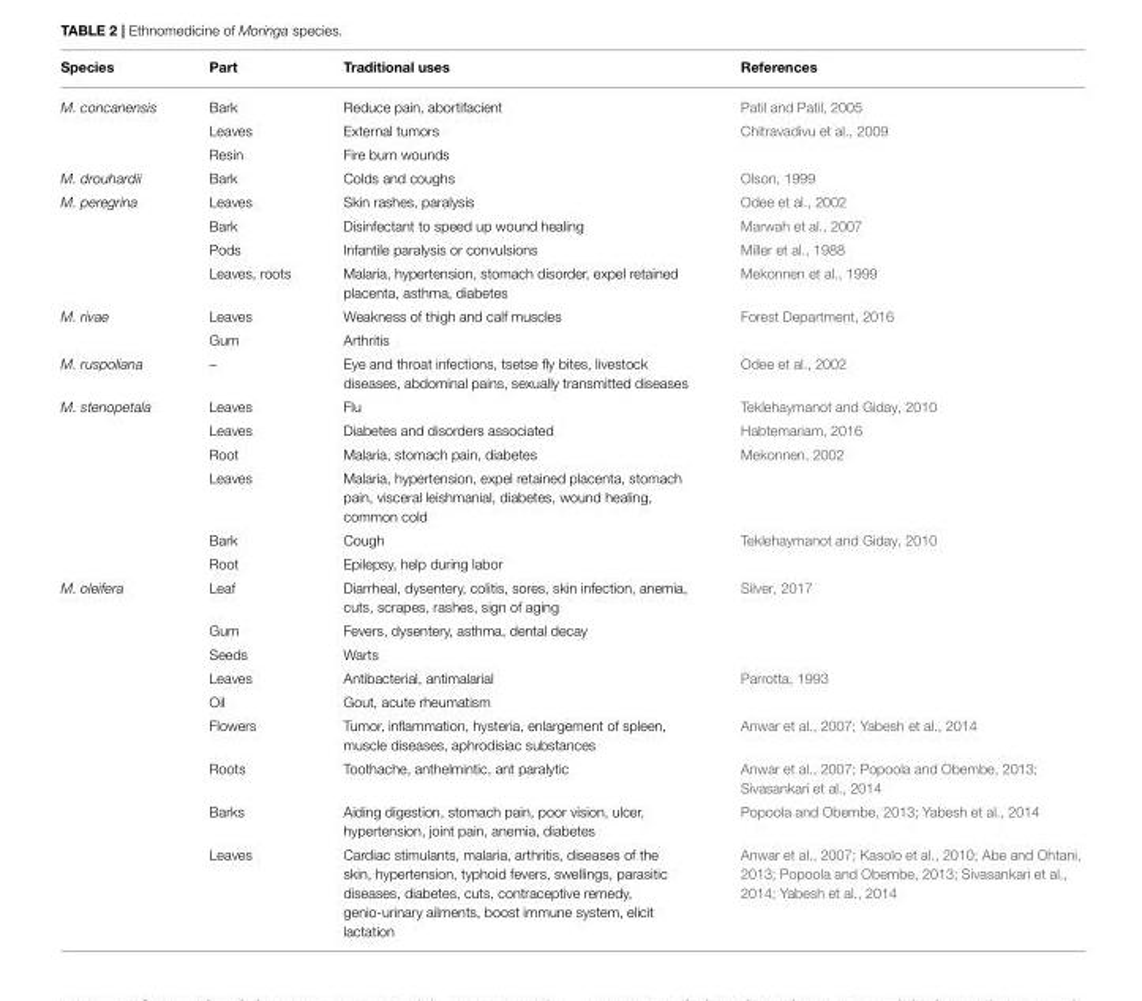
<table><thead><tr><td>Species</td><td>Part</td><td>Traditional uses</td><td>References</td></tr></thead><tbody><tr><td rowspan="3">M. concanensis</td><td>Bark</td><td>Reduce pain, abortifacient</td><td>Patil and Patil, 2005</td></tr><tr><td>Leaves</td><td>External tumors</td><td>Chitravadivu et al., 2009</td></tr><tr><td>Resin</td><td>Fire burn wounds</td><td></td></tr><tr><td>M. drouhardii</td><td>Bark</td><td>Colds and coughs</td><td>Olson, 1999</td></tr><tr><td rowspan="4">M. peregrina</td><td>Leaves</td><td>Skin rashes, paralysis</td><td>Odee et al., 2002</td></tr><tr><td>Bark</td><td>Disinfectant to speed up wound healing</td><td>Marwah et al., 2007</td></tr><tr><td>Pods</td><td>Infantile paralysis or convulsions</td><td>Miller et al., 1988</td></tr><tr><td>Leaves, roots</td><td>Malaria, hypertension, stomach disorder, expel retained placenta, asthma, diabetes</td><td>Mekonnen et al., 1999</td></tr><tr><td rowspan="2">M. rivae</td><td>Leaves</td><td>Weakness of thigh and calf muscles</td><td>Forest Department, 2016</td></tr><tr><td>Gum</td><td>Arthritis</td><td></td></tr><tr><td>M. ruspoliana</td><td>–</td><td>Eye and throat infections, tsetse fly bites, livestock diseases, abdominal pains, sexually transmitted diseases</td><td>Odee et al., 2002</td></tr><tr><td rowspan="6">M. stenopetala</td><td>Leaves</td><td>Flu</td><td>Teklehaymanot and Giday, 2010</td></tr><tr><td>Leaves</td><td>Diabetes and disorders associated</td><td>Habtemariam, 2016</td></tr><tr><td>Root</td><td>Malaria, stomach pain, diabetes</td><td>Mekonnen, 2002</td></tr><tr><td>Leaves</td><td>Malaria, hypertension, expel retained placenta, stomach pain, visceral leishmanial, diabetes, wound healing, common cold</td><td></td></tr><tr><td>Bark</td><td>Cough</td><td>Teklehaymanot and Giday, 2010</td></tr><tr><td>Root</td><td>Epilepsy, help during labor</td><td></td></tr><tr><td rowspan="9">M. oleifera</td><td>Leaf</td><td>Diarrheal, dysentery, colitis, sores, skin infection, anemia, cuts, scrapes, rashes, sign of aging</td><td>Silver, 2017</td></tr><tr><td>Gum</td><td>Fevers, dysentery, asthma, dental decay</td><td></td></tr><tr><td>Seeds</td><td>Warts</td><td></td></tr><tr><td>Leaves</td><td>Antibacterial, antimalarial</td><td>Parrotta, 1993</td></tr><tr><td>Oil</td><td>Gout, acute rheumatism</td><td></td></tr><tr><td>Flowers</td><td>Tumor, inflammation, hysteria, enlargement of spleen, muscle diseases, aphrodisiac substances</td><td>Anwar et al., 2007; Yabesh et al., 2014</td></tr><tr><td>Roots</td><td>Toothache, anthelmintic, ant paralytic</td><td>Anwar et al., 2007; Popoola and Obembe, 2013; Sivasankari et al., 2014</td></tr><tr><td>Barks</td><td>Aiding digestion, stomach pain, poor vision, ulcer, hypertension, joint pain, anemia, diabetes</td><td>Popoola and Obembe, 2013; Yabesh et al., 2014</td></tr><tr><td>Leaves</td><td>Cardiac stimulants, malaria, arthritis, diseases of the skin, hypertension, typhoid fevers, swellings, parasitic diseases, diabetes, cuts, contraceptive remedy, genio-urinary ailments, boost immune system, elicit lactation</td><td>Anwar et al., 2007; Kasolo et al., 2010; Abe and Ohtani, 2013; Popoola and Obembe, 2013; Sivasankari et al., 2014; Yabesh et al., 2014</td></tr></tbody></table>